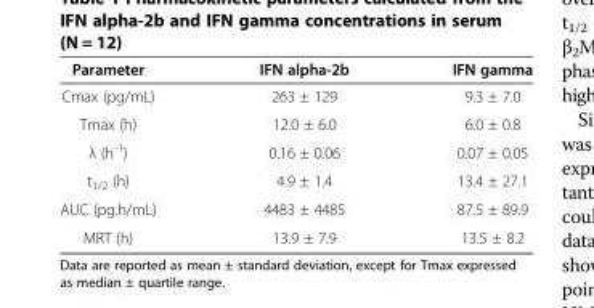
<table><thead><tr><td>Parameter</td><td>IFN alpha-2b</td><td>IFN gamma</td></tr></thead><tbody><tr><td>Cmax (pg/mL)</td><td>263 ± 129</td><td>9.3 ± 7.0</td></tr><tr><td>Tmax (h)</td><td>12.0 ± 6.0</td><td>6.0 ± 0.8</td></tr><tr><td>λ (h<sup>-1</sup>)</td><td>0.16 ± 0.06</td><td>0.07 ± 0.05</td></tr><tr><td>t<sub>1/2</sub> (h)</td><td>4.9 ± 1.4</td><td>13.4 ± 27.1</td></tr><tr><td>AUC (pg.h/mL)</td><td>4483 ± 4485</td><td>87.5 ± 89.9</td></tr><tr><td>MRT (h)</td><td>13.9 ± 7.9</td><td>13.5 ± 8.2</td></tr></tbody></table>